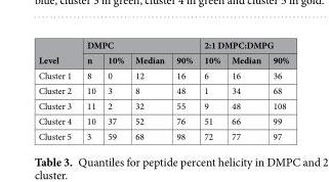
<table><thead><tr><td rowspan="2">Level</td><td colspan="4">DMPC</td><td colspan="3">2:1 DMPC:DMPG</td></tr><tr><td>n</td><td>10%</td><td>Median</td><td>90%</td><td>10%</td><td>Median</td><td>90%</td></tr></thead><tbody><tr><td>Cluster 1</td><td>8</td><td>0</td><td>12</td><td>16</td><td>6</td><td>16</td><td>36</td></tr><tr><td>Cluster 2</td><td>10</td><td>3</td><td>8</td><td>48</td><td>1</td><td>34</td><td>68</td></tr><tr><td>Cluster 3</td><td>11</td><td>2</td><td>32</td><td>55</td><td>9</td><td>48</td><td>108</td></tr><tr><td>Cluster 4</td><td>10</td><td>37</td><td>52</td><td>76</td><td>51</td><td>66</td><td>99</td></tr><tr><td>Cluster 5</td><td>3</td><td>59</td><td>68</td><td>98</td><td>72</td><td>77</td><td>97</td></tr></tbody></table>